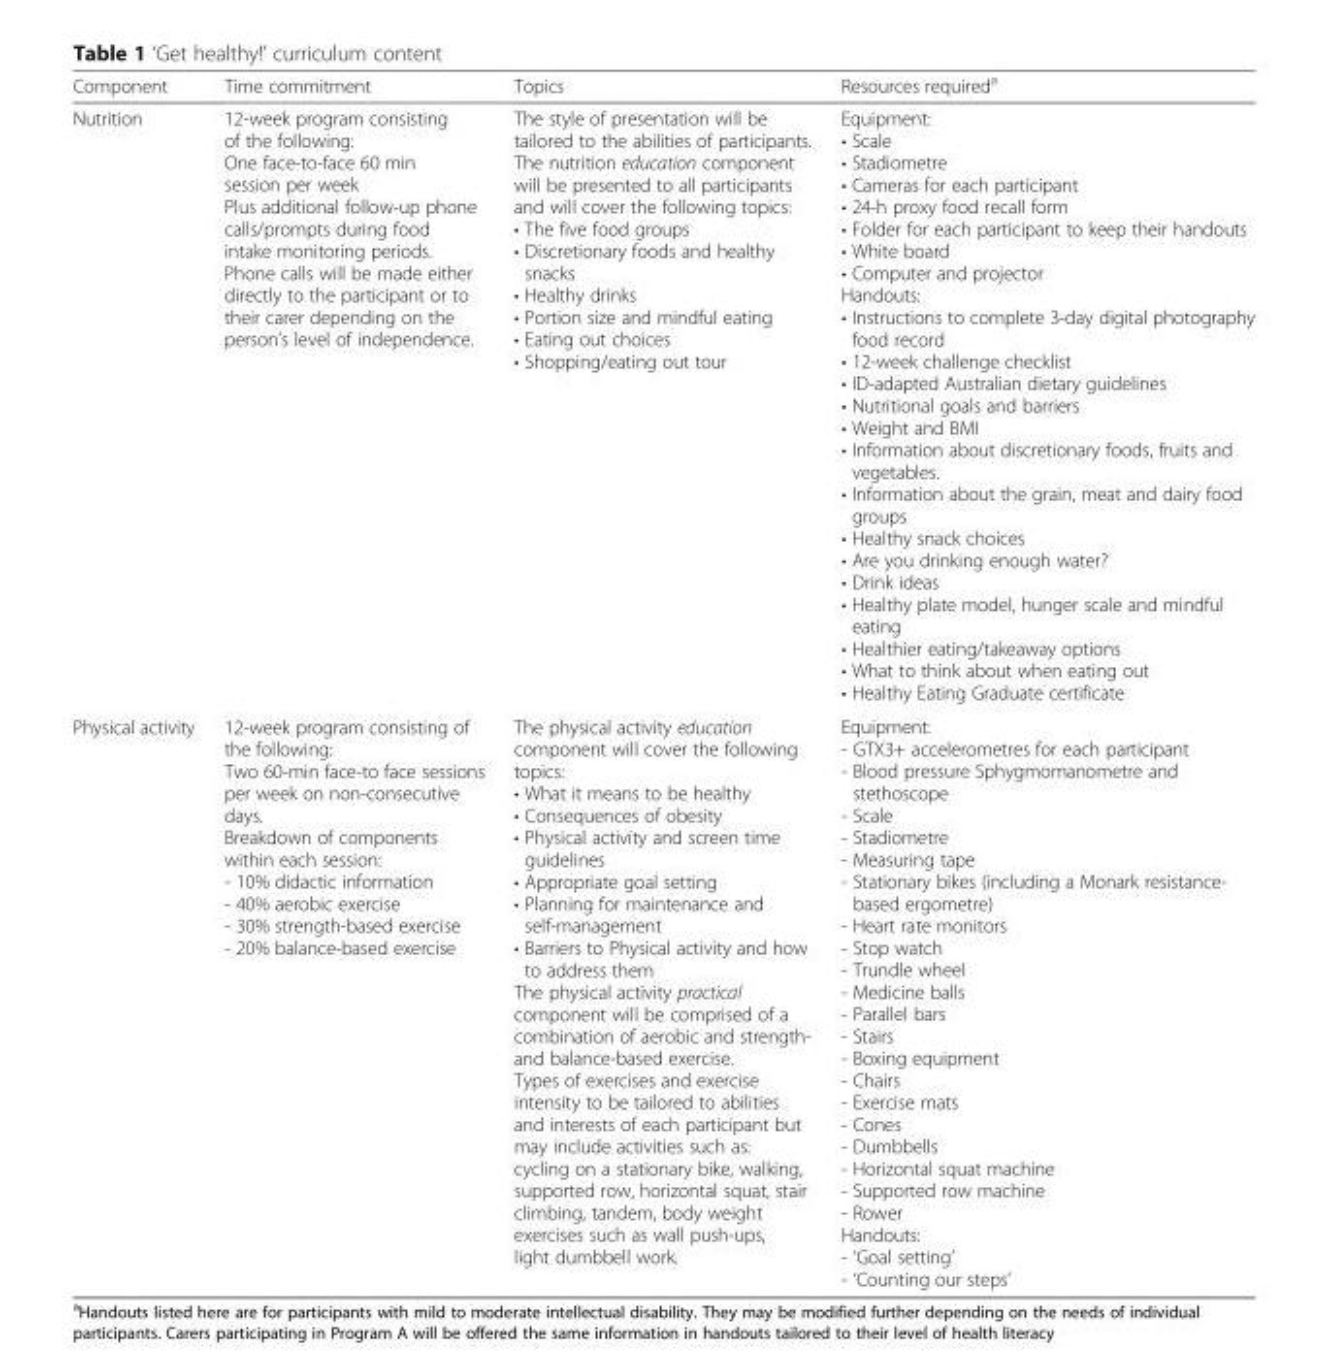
<table><thead><tr><td>Component</td><td>Time commitment</td><td>Topics</td><td>Resources required<sup>a</sup></td></tr></thead><tbody><tr><td>Nutrition</td><td>12-week program consisting of the following: One face-to-face 60 min session per week Plus additional follow-up phone calls/prompts during food intake monitoring periods. Phone calls will be made either directly to the participant or to their carer depending on the person’s level of independence.</td><td>The style of presentation will be tailored to the abilities of participants. The nutrition education component will be presented to all participants and will cover the following topics: • The five food groups • Discretionary foods and healthy snacks • Healthy drinks • Portion size and mindful eating • Eating out choices • Shopping/eating out tour</td><td>Equipment: • Scale • Stadiometre • Cameras for each participant • 24-h proxy food recall form • Folder for each participant to keep their handouts • White board • Computer and projector Handouts: • Instructions to complete 3-day digital photography food record • 12-week challenge checklist • ID-adapted Australian dietary guidelines • Nutritional goals and barriers • Weight and BMI • Information about discretionary foods, fruits and vegetables. • Information about the grain, meat and dairy food groups • Healthy snack choices • Are you drinking enough water? • Drink ideas • Healthy plate model, hunger scale and mindful eating • Healthier eating/takeaway options • What to think about when eating out • Healthy Eating Graduate certificate</td></tr><tr><td>Physical activity</td><td>12-week program consisting of the following: Two 60-min face-to face sessions per week on non-consecutive days. Breakdown of components within each session: - 10% didactic information - 40% aerobic exercise - 30% strength-based exercise - 20% balance-based exercise</td><td>The physical activity education component will cover the following topics: • What it means to be healthy • Consequences of obesity • Physical activity and screen time guidelines • Appropriate goal setting • Planning for maintenance and self-management • Barriers to Physical activity and how to address them The physical activity practical component will be comprised of a combination of aerobic and strength- and balance-based exercise. Types of exercises and exercise intensity to be tailored to abilities and interests of each participant but may include activities such as: cycling on a stationary bike, walking, supported row, horizontal squat, stair climbing, tandem, body weight exercises such as wall push-ups, light dumbbell work.</td><td>Equipment: - GTX3+ accelerometres for each participant - Blood pressure Sphygmomanometre and stethoscope - Scale - Stadiometre - Measuring tape - Stationary bikes (including a Monark resistance- based ergometre) - Heart rate monitors - Stop watch - Trundle wheel - Medicine balls - Parallel bars - Stairs - Boxing equipment - Chairs - Exercise mats - Cones - Dumbbells - Horizontal squat machine - Supported row machine - Rower Handouts: - ‘Goal setting’ - ‘Counting our steps’</td></tr></tbody></table>